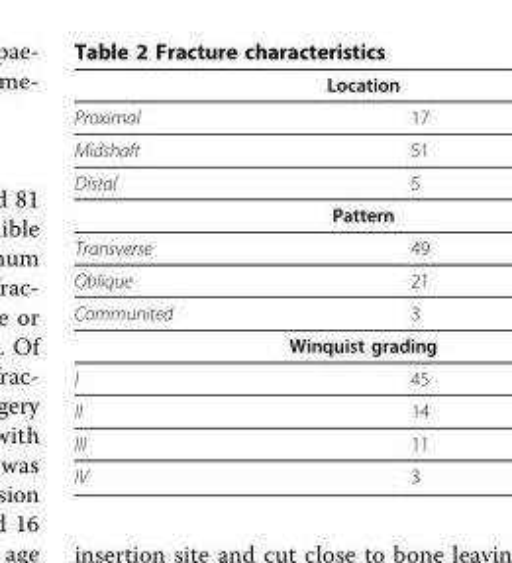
<table><thead><tr><td colspan="2">Location</td></tr><tr><td>Proximal</td><td>17</td></tr></thead><tbody><tr><td>Midshaft</td><td>51</td></tr><tr><td>Distal</td><td>5</td></tr><tr><td colspan="2">Pattern</td></tr><tr><td>Transverse</td><td>49</td></tr><tr><td>Oblique</td><td>21</td></tr><tr><td>Communited</td><td>3</td></tr><tr><td colspan="2">Winquist grading</td></tr><tr><td>I</td><td>45</td></tr><tr><td>II</td><td>14</td></tr><tr><td>III</td><td>11</td></tr><tr><td>IV</td><td>3</td></tr></tbody></table>